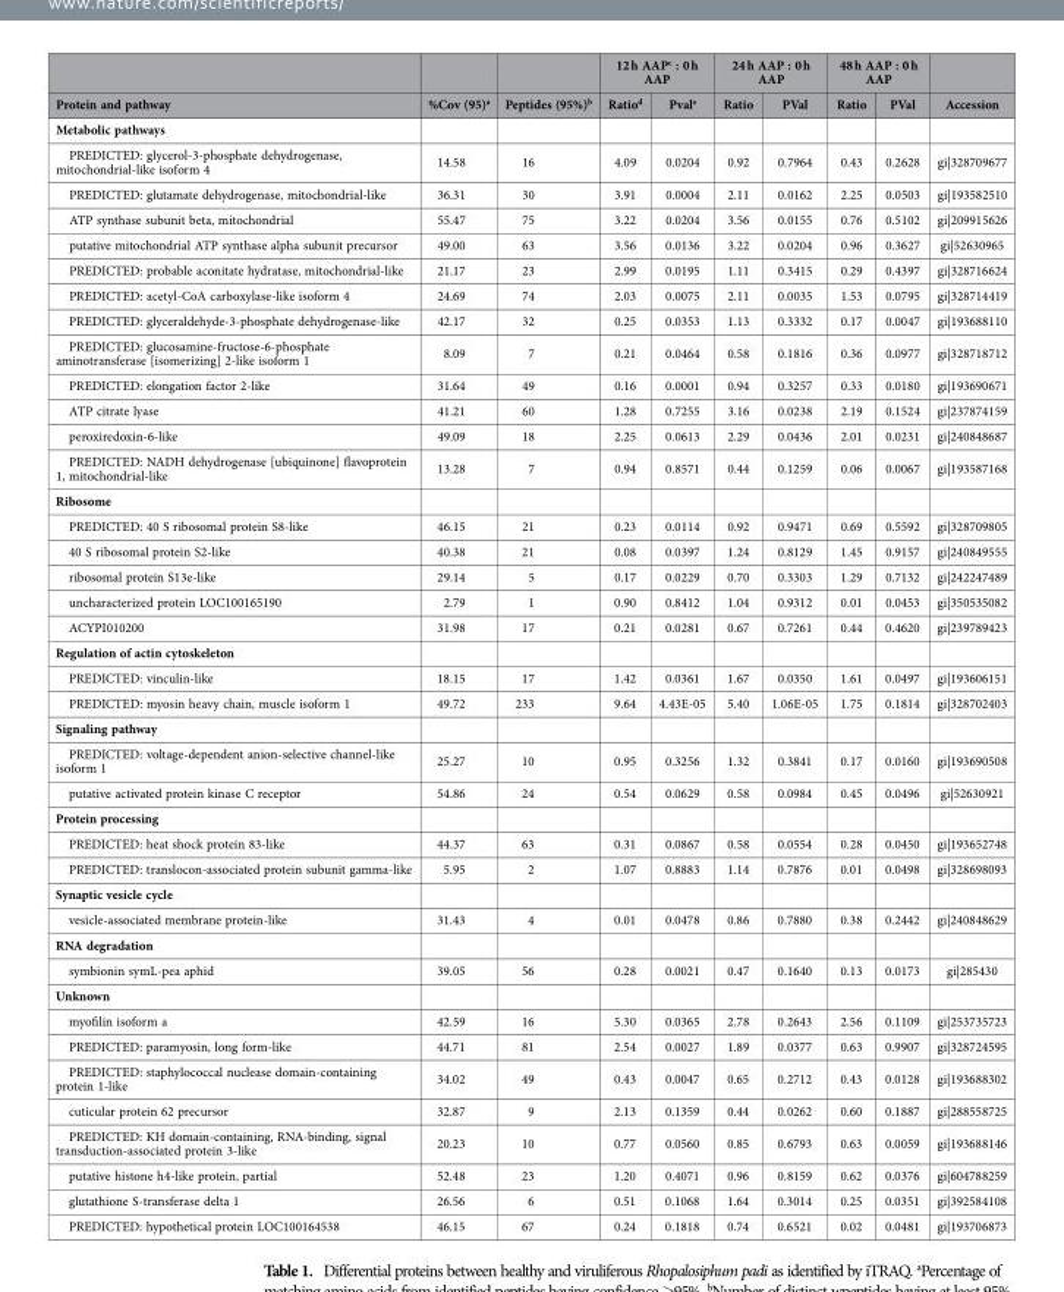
<table><thead><tr><td rowspan="2">Protein and pathway</td><td rowspan="2">%Cov (95)<sup>a</sup></td><td rowspan="2">Peptides (95%)<sup>b</sup></td><td colspan="2">12 h AAP<sup>c</sup> : 0 h AAP</td><td colspan="2">24 h AAP : 0 h AAP</td><td colspan="2">48 h AAP : 0 h AAP</td><td rowspan="2">Accession</td></tr><tr><td>Ratio<sup>d</sup></td><td>Pval<sup>e</sup></td><td>Ratio</td><td>PVal</td><td>Ratio</td><td>PVal</td></tr></thead><tbody><tr><td colspan="10">Metabolic pathways</td></tr><tr><td>PREDICTED: glycerol-3-phosphate dehydrogenase, mitochondrial-like isoform 4</td><td>14.58</td><td>16</td><td>4.09</td><td>0.0204</td><td>0.92</td><td>0.7964</td><td>0.43</td><td>0.2628</td><td>gi|328709677</td></tr><tr><td>PREDICTED: glutamate dehydrogenase, mitochondrial-like</td><td>36.31</td><td>30</td><td>3.91</td><td>0.0004</td><td>2.11</td><td>0.0162</td><td>2.25</td><td>0.0503</td><td>gi|193582510</td></tr><tr><td>ATP synthase subunit beta, mitochondrial</td><td>55.47</td><td>75</td><td>3.22</td><td>0.0204</td><td>3.56</td><td>0.0155</td><td>0.76</td><td>0.5102</td><td>gi|209915626</td></tr><tr><td>putative mitochondrial ATP synthase alpha subunit precursor</td><td>49.00</td><td>63</td><td>3.56</td><td>0.0136</td><td>3.22</td><td>0.0204</td><td>0.96</td><td>0.3627</td><td>gi|52630965</td></tr><tr><td>PREDICTED: probable aconitate hydratase, mitochondrial-like</td><td>21.17</td><td>23</td><td>2.99</td><td>0.0195</td><td>1.11</td><td>0.3415</td><td>0.29</td><td>0.4397</td><td>gi|328716624</td></tr><tr><td>PREDICTED: acetyl-CoA carboxylase-like isoform 4</td><td>24.69</td><td>74</td><td>2.03</td><td>0.0075</td><td>2.11</td><td>0.0035</td><td>1.53</td><td>0.0795</td><td>gi|328714419</td></tr><tr><td>PREDICTED: glyceraldehyde-3-phosphate dehydrogenase-like</td><td>42.17</td><td>32</td><td>0.25</td><td>0.0353</td><td>1.13</td><td>0.3332</td><td>0.17</td><td>0.0047</td><td>gi|193688110</td></tr><tr><td>PREDICTED: glucosamine-fructose-6-phosphate aminotransferase [isomerizing] 2-like isoform 1</td><td>8.09</td><td>7</td><td>0.21</td><td>0.0464</td><td>0.58</td><td>0.1816</td><td>0.36</td><td>0.0977</td><td>gi|328718712</td></tr><tr><td>PREDICTED: elongation factor 2-like</td><td>31.64</td><td>49</td><td>0.16</td><td>0.0001</td><td>0.94</td><td>0.3257</td><td>0.33</td><td>0.0180</td><td>gi|193690671</td></tr><tr><td>ATP citrate lyase</td><td>41.21</td><td>60</td><td>1.28</td><td>0.7255</td><td>3.16</td><td>0.0238</td><td>2.19</td><td>0.1524</td><td>gi|237874159</td></tr><tr><td>peroxiredoxin-6-like</td><td>49.09</td><td>18</td><td>2.25</td><td>0.0613</td><td>2.29</td><td>0.0436</td><td>2.01</td><td>0.0231</td><td>gi|240848687</td></tr><tr><td>PREDICTED: NADH dehydrogenase [ubiquinone] flavoprotein 1, mitochondrial-like</td><td>13.28</td><td>7</td><td>0.94</td><td>0.8571</td><td>0.44</td><td>0.1259</td><td>0.06</td><td>0.0067</td><td>gi|193587168</td></tr><tr><td colspan="10">Ribosome</td></tr><tr><td>PREDICTED: 40 S ribosomal protein S8-like</td><td>46.15</td><td>21</td><td>0.23</td><td>0.0114</td><td>0.92</td><td>0.9471</td><td>0.69</td><td>0.5592</td><td>gi|328709805</td></tr><tr><td>40 S ribosomal protein S2-like</td><td>40.38</td><td>21</td><td>0.08</td><td>0.0397</td><td>1.24</td><td>0.8129</td><td>1.45</td><td>0.9157</td><td>gi|240849555</td></tr><tr><td>ribosomal protein S13e-like</td><td>29.14</td><td>5</td><td>0.17</td><td>0.0229</td><td>0.70</td><td>0.3303</td><td>1.29</td><td>0.7132</td><td>gi|242247489</td></tr><tr><td>uncharacterized protein LOC100165190</td><td>2.79</td><td>1</td><td>0.90</td><td>0.8412</td><td>1.04</td><td>0.9312</td><td>0.01</td><td>0.0453</td><td>gi|350535082</td></tr><tr><td>ACYPI010200</td><td>31.98</td><td>17</td><td>0.21</td><td>0.0281</td><td>0.67</td><td>0.7261</td><td>0.44</td><td>0.4620</td><td>gi|239789423</td></tr><tr><td colspan="10">Regulation of actin cytoskeleton</td></tr><tr><td>PREDICTED: vinculin-like</td><td>18.15</td><td>17</td><td>1.42</td><td>0.0361</td><td>1.67</td><td>0.0350</td><td>1.61</td><td>0.0497</td><td>gi|193606151</td></tr><tr><td>PREDICTED: myosin heavy chain, muscle isoform 1</td><td>49.72</td><td>233</td><td>9.64</td><td>4.43E-05</td><td>5.40</td><td>1.06E-05</td><td>1.75</td><td>0.1814</td><td>gi|328702403</td></tr><tr><td colspan="10">Signaling pathway</td></tr><tr><td>PREDICTED: voltage-dependent anion-selective channel-like isoform 1</td><td>25.27</td><td>10</td><td>0.95</td><td>0.3256</td><td>1.32</td><td>0.3841</td><td>0.17</td><td>0.0160</td><td>gi|193690508</td></tr><tr><td>putative activated protein kinase C receptor</td><td>54.86</td><td>24</td><td>0.54</td><td>0.0629</td><td>0.58</td><td>0.0984</td><td>0.45</td><td>0.0496</td><td>gi|52630921</td></tr><tr><td colspan="10">Protein processing</td></tr><tr><td>PREDICTED: heat shock protein 83-like</td><td>44.37</td><td>63</td><td>0.31</td><td>0.0867</td><td>0.58</td><td>0.0554</td><td>0.28</td><td>0.0450</td><td>gi|193652748</td></tr><tr><td>PREDICTED: translocon-associated protein subunit gamma-like</td><td>5.95</td><td>2</td><td>1.07</td><td>0.8883</td><td>1.14</td><td>0.7876</td><td>0.01</td><td>0.0498</td><td>gi|328698093</td></tr><tr><td colspan="10">Synaptic vesicle cycle</td></tr><tr><td>vesicle-associated membrane protein-like</td><td>31.43</td><td>4</td><td>0.01</td><td>0.0478</td><td>0.86</td><td>0.7880</td><td>0.38</td><td>0.2442</td><td>gi|240848629</td></tr><tr><td colspan="10">RNA degradation</td></tr><tr><td>symbionin symL-pea aphid</td><td>39.05</td><td>56</td><td>0.28</td><td>0.0021</td><td>0.47</td><td>0.1640</td><td>0.13</td><td>0.0173</td><td>gi|285430</td></tr><tr><td colspan="10">Unknown</td></tr><tr><td>myofilin isoform a</td><td>42.59</td><td>16</td><td>5.30</td><td>0.0365</td><td>2.78</td><td>0.2643</td><td>2.56</td><td>0.1109</td><td>gi|253735723</td></tr><tr><td>PREDICTED: paramyosin, long form-like</td><td>44.71</td><td>81</td><td>2.54</td><td>0.0027</td><td>1.89</td><td>0.0377</td><td>0.63</td><td>0.9907</td><td>gi|328724595</td></tr><tr><td>PREDICTED: staphylococcal nuclease domain-containing protein 1-like</td><td>34.02</td><td>49</td><td>0.43</td><td>0.0047</td><td>0.65</td><td>0.2712</td><td>0.43</td><td>0.0128</td><td>gi|193688302</td></tr><tr><td>cuticular protein 62 precursor</td><td>32.87</td><td>9</td><td>2.13</td><td>0.1359</td><td>0.44</td><td>0.0262</td><td>0.60</td><td>0.1887</td><td>gi|288558725</td></tr><tr><td>PREDICTED: KH domain-containing, RNA-binding, signal transduction-associated protein 3-like</td><td>20.23</td><td>10</td><td>0.77</td><td>0.0560</td><td>0.85</td><td>0.6793</td><td>0.63</td><td>0.0059</td><td>gi|193688146</td></tr><tr><td>putative histone h4-like protein, partial</td><td>52.48</td><td>23</td><td>1.20</td><td>0.4071</td><td>0.96</td><td>0.8159</td><td>0.62</td><td>0.0376</td><td>gi|604788259</td></tr><tr><td>glutathione S-transferase delta 1</td><td>26.56</td><td>6</td><td>0.51</td><td>0.1068</td><td>1.64</td><td>0.3014</td><td>0.25</td><td>0.0351</td><td>gi|392584108</td></tr><tr><td>PREDICTED: hypothetical protein LOC100164538</td><td>46.15</td><td>67</td><td>0.24</td><td>0.1818</td><td>0.74</td><td>0.6521</td><td>0.02</td><td>0.0481</td><td>gi|193706873</td></tr></tbody></table>